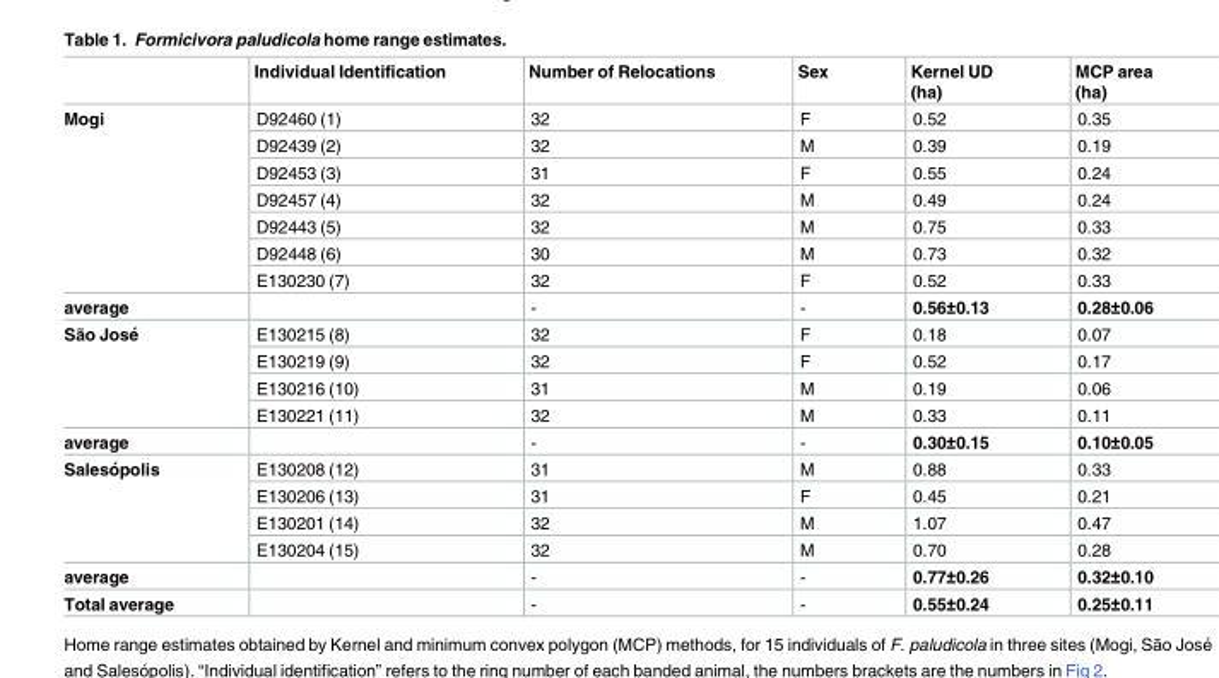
<table><thead><tr><td></td><td>Individual Identification</td><td>Number of Relocations</td><td>Sex</td><td>Kernel UD (ha)</td><td>MCP area (ha)</td></tr></thead><tbody><tr><td rowspan="7">Mogi</td><td>D92460 (1)</td><td>32</td><td>F</td><td>0.52</td><td>0.35</td></tr><tr><td>D92439 (2)</td><td>32</td><td>M</td><td>0.39</td><td>0.19</td></tr><tr><td>D92453 (3)</td><td>31</td><td>F</td><td>0.55</td><td>0.24</td></tr><tr><td>D92457 (4)</td><td>32</td><td>M</td><td>0.49</td><td>0.24</td></tr><tr><td>D92443 (5)</td><td>32</td><td>M</td><td>0.75</td><td>0.33</td></tr><tr><td>D92448 (6)</td><td>30</td><td>M</td><td>0.73</td><td>0.32</td></tr><tr><td>E130230 (7)</td><td>32</td><td>F</td><td>0.52</td><td>0.33</td></tr><tr><td>average</td><td></td><td>-</td><td>-</td><td>0.56±0.13</td><td>0.28±0.06</td></tr><tr><td rowspan="4">São Jose´</td><td>E130215 (8)</td><td>32</td><td>F</td><td>0.18</td><td>0.07</td></tr><tr><td>E130219 (9)</td><td>32</td><td>F</td><td>0.52</td><td>0.17</td></tr><tr><td>E130216 (10)</td><td>31</td><td>M</td><td>0.19</td><td>0.06</td></tr><tr><td>E130221 (11)</td><td>32</td><td>M</td><td>0.33</td><td>0.11</td></tr><tr><td>average</td><td></td><td>-</td><td>-</td><td>0.30±0.15</td><td>0.10±0.05</td></tr><tr><td rowspan="4">Saleso´polis</td><td>E130208 (12)</td><td>31</td><td>M</td><td>0.88</td><td>0.33</td></tr><tr><td>E130206 (13)</td><td>31</td><td>F</td><td>0.45</td><td>0.21</td></tr><tr><td>E130201 (14)</td><td>32</td><td>M</td><td>1.07</td><td>0.47</td></tr><tr><td>E130204 (15)</td><td>32</td><td>M</td><td>0.70</td><td>0.28</td></tr><tr><td>average</td><td></td><td>-</td><td>-</td><td>0.77±0.26</td><td>0.32±0.10</td></tr><tr><td>Total average</td><td></td><td>-</td><td>-</td><td>0.55±0.24</td><td>0.25±0.11</td></tr></tbody></table>